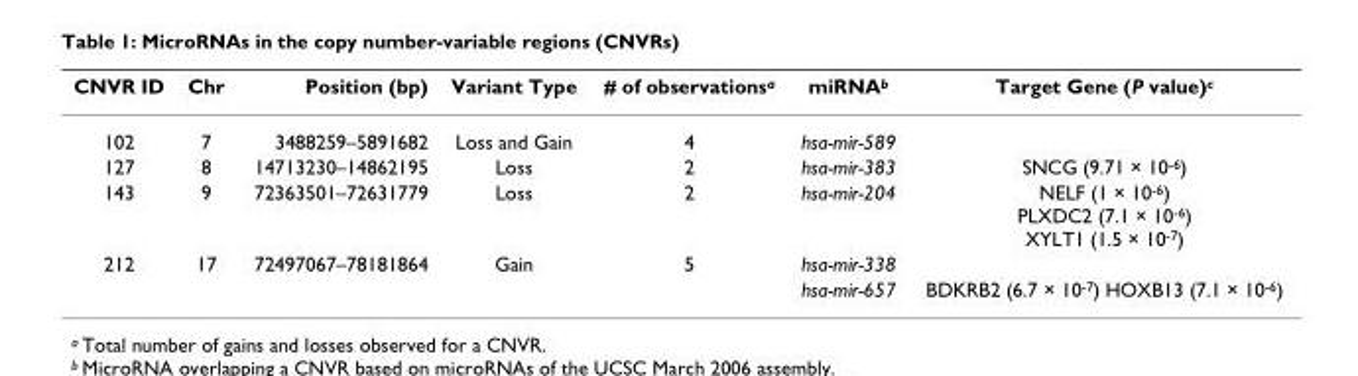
<table><thead><tr><td>CNVR ID</td><td>Chr</td><td>Position (bp)</td><td>Variant Type</td><td># of observations<sup>a</sup></td><td>miRNA<sup>b</sup></td><td>Target Gene (P value)<sup>c</sup></td></tr></thead><tbody><tr><td>102</td><td>7</td><td>3488259–5891682</td><td>Loss and Gain</td><td>4</td><td>hsa-mir-589</td><td></td></tr><tr><td>127</td><td>8</td><td>14713230–14862195</td><td>Loss</td><td>2</td><td>hsa-mir-383</td><td>SNCG (9.71 × 10<sup>-6</sup>)</td></tr><tr><td>143</td><td>9</td><td>72363501–72631779</td><td>Loss</td><td>2</td><td>hsa-mir-204</td><td>NELF (1 × 10<sup>-6</sup>) PLXDC2 (7.1 × 10<sup>-6</sup>) XYLT1 (1.5 × 10<sup>-7</sup>)</td></tr><tr><td rowspan="2">212</td><td>17</td><td>72497067–78181864</td><td>Gain</td><td>5</td><td>hsa-mir-338</td><td></td></tr><tr><td></td><td></td><td></td><td></td><td>hsa-mir-657</td><td>BDKRB2 (6.7 × 10<sup>-7</sup>) HOXB13 (7.1 × 10<sup>-6</sup>)</td></tr></tbody></table>